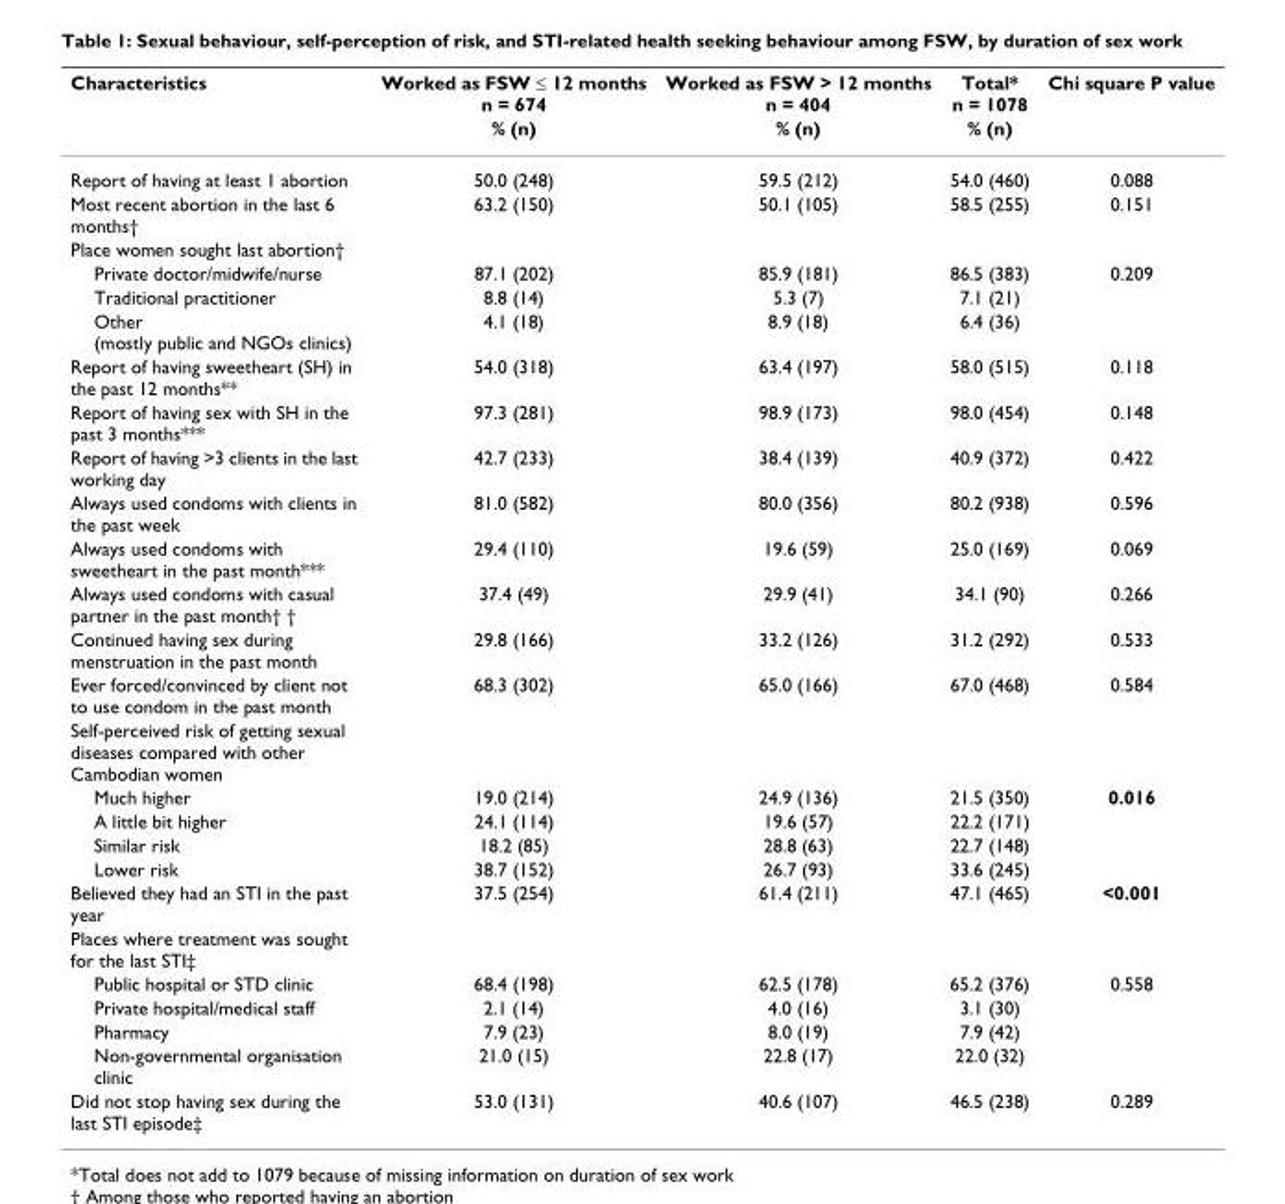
<table><thead><tr><td rowspan="2">Characteristics</td><td rowspan="2">Worked as FSW ≤ 12 months n = 674 % (n)</td><td rowspan="2">Worked as FSW &gt; 12 months n = 404 % (n)</td><td rowspan="2">Total* n = 1078 % (n)</td><td rowspan="2">Chi square P value</td></tr><tr></tr></thead><tbody><tr><td>Report of having at least 1 abortion</td><td>50.0 (248)</td><td>59.5 (212)</td><td>54.0 (460)</td><td>0.088</td></tr><tr><td>Most recent abortion in the last 6 months†</td><td>63.2 (150)</td><td>50.1 (105)</td><td>58.5 (255)</td><td>0.151</td></tr><tr><td colspan="5">Place women sought last abortion†</td></tr><tr><td>Private doctor/midwife/nurse</td><td>87.1 (202)</td><td>85.9 (181)</td><td>86.5 (383)</td><td>0.209</td></tr><tr><td>Traditional practitioner</td><td>8.8 (14)</td><td>5.3 (7)</td><td>7.1 (21)</td><td></td></tr><tr><td>Other (mostly public and NGOs clinics)</td><td>4.1 (18)</td><td>8.9 (18)</td><td>6.4 (36)</td><td></td></tr><tr><td>Report of having sweetheart (SH) in the past 12 months**</td><td>54.0 (318)</td><td>63.4 (197)</td><td>58.0 (515)</td><td>0.118</td></tr><tr><td>Report of having sex with SH in the past 3 months***</td><td>97.3 (281)</td><td>98.9 (173)</td><td>98.0 (454)</td><td>0.148</td></tr><tr><td>Report of having &gt;3 clients in the last working day</td><td>42.7 (233)</td><td>38.4 (139)</td><td>40.9 (372)</td><td>0.422</td></tr><tr><td>Always used condoms with clients in the past week</td><td>81.0 (582)</td><td>80.0 (356)</td><td>80.2 (938)</td><td>0.596</td></tr><tr><td>Always used condoms with sweetheart in the past month***</td><td>29.4 (110)</td><td>19.6 (59)</td><td>25.0 (169)</td><td>0.069</td></tr><tr><td>Always used condoms with casual partner in the past month† †</td><td>37.4 (49)</td><td>29.9 (41)</td><td>34.1 (90)</td><td>0.266</td></tr><tr><td>Continued having sex during menstruation in the past month</td><td>29.8 (166)</td><td>33.2 (126)</td><td>31.2 (292)</td><td>0.533</td></tr><tr><td>Ever forced/convinced by client not to use condom in the past month</td><td>68.3 (302)</td><td>65.0 (166)</td><td>67.0 (468)</td><td>0.584</td></tr><tr><td colspan="5">Self-perceived risk of getting sexual diseases compared with other Cambodian women</td></tr><tr><td>Much higher</td><td>19.0 (214)</td><td>24.9 (136)</td><td>21.5 (350)</td><td>0.016</td></tr><tr><td>A little bit higher</td><td>24.1 (114)</td><td>19.6 (57)</td><td>22.2 (171)</td><td></td></tr><tr><td>Similar risk</td><td>18.2 (85)</td><td>28.8 (63)</td><td>22.7 (148)</td><td></td></tr><tr><td>Lower risk</td><td>38.7 (152)</td><td>26.7 (93)</td><td>33.6 (245)</td><td></td></tr><tr><td>Believed they had an STI in the past year</td><td>37.5 (254)</td><td>61.4 (211)</td><td>47.1 (465)</td><td>&lt;0.001</td></tr><tr><td colspan="5">Places where treatment was sought for the last STI‡</td></tr><tr><td>Public hospital or STD clinic</td><td>68.4 (198)</td><td>62.5 (178)</td><td>65.2 (376)</td><td>0.558</td></tr><tr><td>Private hospital/medical staff</td><td>2.1 (14)</td><td>4.0 (16)</td><td>3.1 (30)</td><td></td></tr><tr><td>Pharmacy</td><td>7.9 (23)</td><td>8.0 (19)</td><td>7.9 (42)</td><td></td></tr><tr><td>Non-governmental organisation clinic</td><td>21.0 (15)</td><td>22.8 (17)</td><td>22.0 (32)</td><td></td></tr><tr><td>Did not stop having sex during the last STI episode‡</td><td>53.0 (131)</td><td>40.6 (107)</td><td>46.5 (238)</td><td>0.289</td></tr></tbody></table>